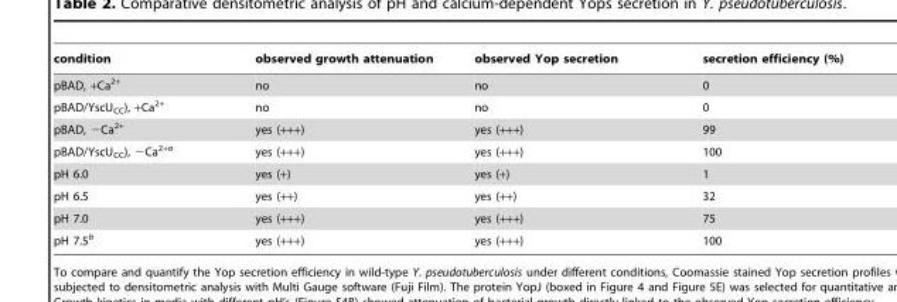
<table><thead><tr><td>condition</td><td>observed growth attenuation</td><td>observed Yop secretion</td><td>secretion efficiency (%)</td></tr></thead><tbody><tr><td>pBAD, +Ca<sup>2+</sup></td><td>no</td><td>no</td><td>0</td></tr><tr><td>pBAD/YscU<sub>CC</sub>), +Ca<sup>2+</sup></td><td>no</td><td>no</td><td>0</td></tr><tr><td>pBAD, −Ca<sup>2+</sup></td><td>yes (+++)</td><td>yes (+++)</td><td>99</td></tr><tr><td>pBAD/YscU<sub>CC</sub>), −Ca<sup>2+a</sup></td><td>yes (+++)</td><td>yes (+++)</td><td>100</td></tr><tr><td>pH 6.0</td><td>yes (+)</td><td>yes (+)</td><td>1</td></tr><tr><td>pH 6.5</td><td>yes (++)</td><td>yes (++)</td><td>32</td></tr><tr><td>pH 7.0</td><td>yes (+++)</td><td>yes (+++)</td><td>75</td></tr><tr><td>pH 7.5<sup>b</sup></td><td>yes (+++)</td><td>yes (+++)</td><td>100</td></tr></tbody></table>